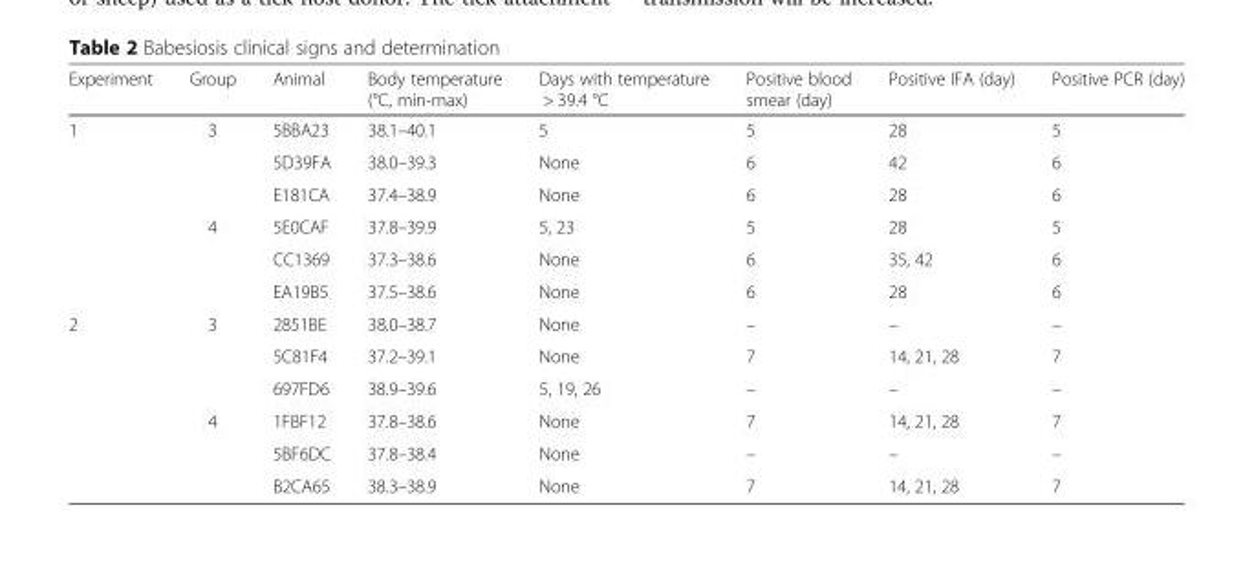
<table><thead><tr><td>Experiment</td><td>Group</td><td>Animal</td><td>Body temperature (°C, min-max)</td><td>Days with temperature &gt; 39.4 °C</td><td>Positive blood smear (day)</td><td>Positive IFA (day)</td><td>Positive PCR (day)</td></tr></thead><tbody><tr><td rowspan="6">1</td><td>3</td><td>5BBA23</td><td>38.1–40.1</td><td>5</td><td>5</td><td>28</td><td>5</td></tr><tr><td></td><td>5D39FA</td><td>38.0–39.3</td><td>None</td><td>6</td><td>42</td><td>6</td></tr><tr><td></td><td>E181CA</td><td>37.4–38.9</td><td>None</td><td>6</td><td>28</td><td>6</td></tr><tr><td>4</td><td>5E0CAF</td><td>37.8–39.9</td><td>5, 23</td><td>5</td><td>28</td><td>5</td></tr><tr><td></td><td>CC1369</td><td>37.3–38.6</td><td>None</td><td>6</td><td>35, 42</td><td>6</td></tr><tr><td></td><td>EA19B5</td><td>37.5–38.6</td><td>None</td><td>6</td><td>28</td><td>6</td></tr><tr><td rowspan="6">2</td><td>3</td><td>2851BE</td><td>38.0–38.7</td><td>None</td><td>–</td><td>–</td><td>–</td></tr><tr><td></td><td>5C81F4</td><td>37.2–39.1</td><td>None</td><td>7</td><td>14, 21, 28</td><td>7</td></tr><tr><td></td><td>697FD6</td><td>38.9–39.6</td><td>5, 19, 26</td><td>–</td><td>–</td><td>–</td></tr><tr><td>4</td><td>1FBF12</td><td>37.8–38.6</td><td>None</td><td>7</td><td>14, 21, 28</td><td>7</td></tr><tr><td></td><td>5BF6DC</td><td>37.8–38.4</td><td>None</td><td>–</td><td>–</td><td>–</td></tr><tr><td></td><td>B2CA65</td><td>38.3–38.9</td><td>None</td><td>7</td><td>14, 21, 28</td><td>7</td></tr></tbody></table>